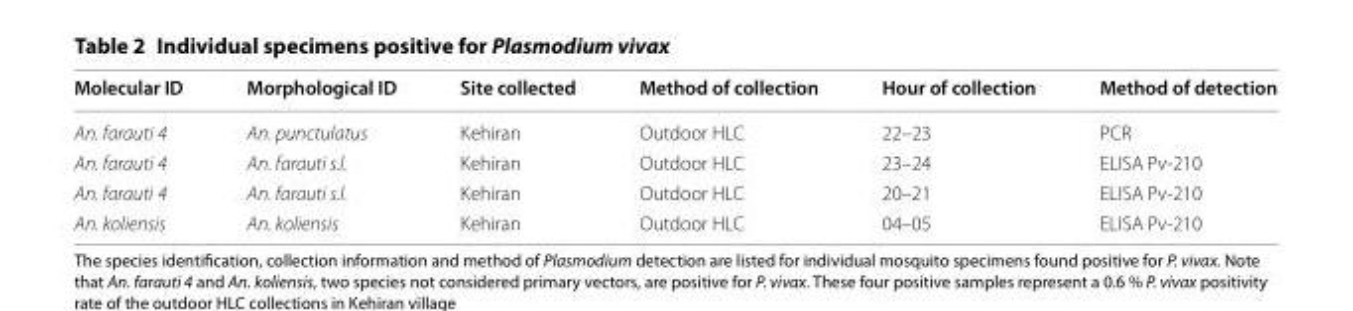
<table><thead><tr><td>Molecular ID</td><td>Morphological ID</td><td>Site collected</td><td>Method of collection</td><td>Hour of collection</td><td>Method of detection</td></tr></thead><tbody><tr><td>An. farauti 4</td><td>An. punctulatus</td><td>Kehiran</td><td>Outdoor HLC</td><td>22–23</td><td>PCR</td></tr><tr><td>An. farauti 4</td><td>An. farauti s.l.</td><td>Kehiran</td><td>Outdoor HLC</td><td>23–24</td><td>ELISA Pv-210</td></tr><tr><td>An. farauti 4</td><td>An. farauti s.l.</td><td>Kehiran</td><td>Outdoor HLC</td><td>20–21</td><td>ELISA Pv-210</td></tr><tr><td>An. koliensis</td><td>An. koliensis</td><td>Kehiran</td><td>Outdoor HLC</td><td>04–05</td><td>ELISA Pv-210</td></tr></tbody></table>